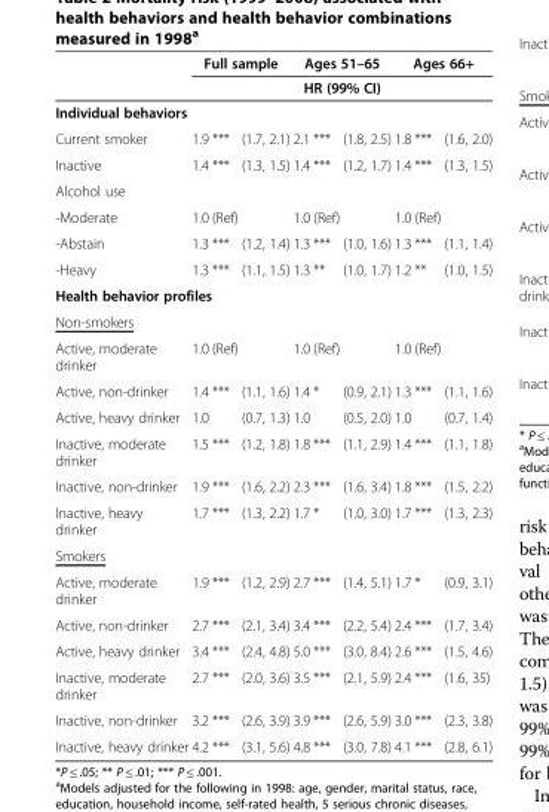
<table><thead><tr><td rowspan="2"></td><td colspan="3">Full sample</td><td colspan="3">Ages 51–65</td><td colspan="3">Ages 66+</td></tr><tr><td colspan="9">HR (99% CI)</td></tr><tr><td colspan="10">Individual behaviors</td></tr><tr><td>Current smoker</td><td>1.9</td><td>***</td><td>(1.7, 2.1)</td><td>2.1</td><td>***</td><td>(1.8, 2.5)</td><td>1.8</td><td>***</td><td>(1.6, 2.0)</td></tr></thead><tbody><tr><td>Inactive</td><td>1.4</td><td>***</td><td>(1.3, 1.5)</td><td>1.4</td><td>***</td><td>(1.2, 1.7)</td><td>1.4</td><td>***</td><td>(1.3, 1.5)</td></tr><tr><td colspan="10">Alcohol use</td></tr><tr><td>-Moderate</td><td>1.0</td><td>(Ref)</td><td></td><td>1.0</td><td>(Ref)</td><td></td><td>1.0</td><td>(Ref)</td><td></td></tr><tr><td>-Abstain</td><td>1.3</td><td>***</td><td>(1.2, 1.4)</td><td>1.3</td><td>***</td><td>(1.0, 1.6)</td><td>1.3</td><td>***</td><td>(1.1, 1.4)</td></tr><tr><td>-Heavy</td><td>1.3</td><td>***</td><td>(1.1, 1.5)</td><td>1.3</td><td>**</td><td>(1.0, 1.7)</td><td>1.2</td><td>**</td><td>(1.0, 1.5)</td></tr><tr><td colspan="10">Health behavior profiles</td></tr><tr><td colspan="10">Non-smokers</td></tr><tr><td>Active, moderate drinker</td><td>1.0</td><td>(Ref)</td><td></td><td>1.0</td><td>(Ref)</td><td></td><td>1.0</td><td>(Ref)</td><td></td></tr><tr><td>Active, non-drinker</td><td>1.4</td><td>***</td><td>(1.1, 1.6)</td><td>1.4</td><td>*</td><td>(0.9, 2.1)</td><td>1.3</td><td>***</td><td>(1.1, 1.6)</td></tr><tr><td>Active, heavy drinker</td><td>1.0</td><td></td><td>(0.7, 1.3)</td><td>1.0</td><td></td><td>(0.5, 2.0)</td><td>1.0</td><td></td><td>(0.7, 1.4)</td></tr><tr><td>Inactive, moderate drinker</td><td>1.5</td><td>***</td><td>(1.2, 1.8)</td><td>1.8</td><td>***</td><td>(1.1, 2.9)</td><td>1.4</td><td>***</td><td>(1.1, 1.8)</td></tr><tr><td>Inactive, non-drinker</td><td>1.9</td><td>***</td><td>(1.6, 2.2)</td><td>2.3</td><td>***</td><td>(1.6, 3.4)</td><td>1.8</td><td>***</td><td>(1.5, 2.2)</td></tr><tr><td>Inactive, heavy drinker</td><td>1.7</td><td>***</td><td>(1.3, 2.2)</td><td>1.7</td><td>*</td><td>(1.0, 3.0)</td><td>1.7</td><td>***</td><td>(1.3, 2.3)</td></tr><tr><td colspan="10">Smokers</td></tr><tr><td>Active, moderate drinker</td><td>1.9</td><td>***</td><td>(1.2, 2.9)</td><td>2.7</td><td>***</td><td>(1.4, 5.1)</td><td>1.7</td><td>*</td><td>(0.9, 3.1)</td></tr><tr><td>Active, non-drinker</td><td>2.7</td><td>***</td><td>(2.1, 3.4)</td><td>3.4</td><td>***</td><td>(2.2, 5.4)</td><td>2.4</td><td>***</td><td>(1.7, 3.4)</td></tr><tr><td>Active, heavy drinker</td><td>3.4</td><td>***</td><td>(2.4, 4.8)</td><td>5.0</td><td>***</td><td>(3.0, 8.4)</td><td>2.6</td><td>***</td><td>(1.5, 4.6)</td></tr><tr><td>Inactive, moderate drinker</td><td>2.7</td><td>***</td><td>(2.0, 3.6)</td><td>3.5</td><td>***</td><td>(2.1, 5.9)</td><td>2.4</td><td>***</td><td>(1.6, 35)</td></tr><tr><td>Inactive, non-drinker</td><td>3.2</td><td>***</td><td>(2.6, 3.9)</td><td>3.9</td><td>***</td><td>(2.6, 5.9)</td><td>3.0</td><td>***</td><td>(2.3, 3.8)</td></tr><tr><td>Inactive, heavy drinker</td><td>4.2</td><td>***</td><td>(3.1, 5.6)</td><td>4.8</td><td>***</td><td>(3.0, 7.8)</td><td>4.1</td><td>***</td><td>(2.8, 6.1)</td></tr></tbody></table>